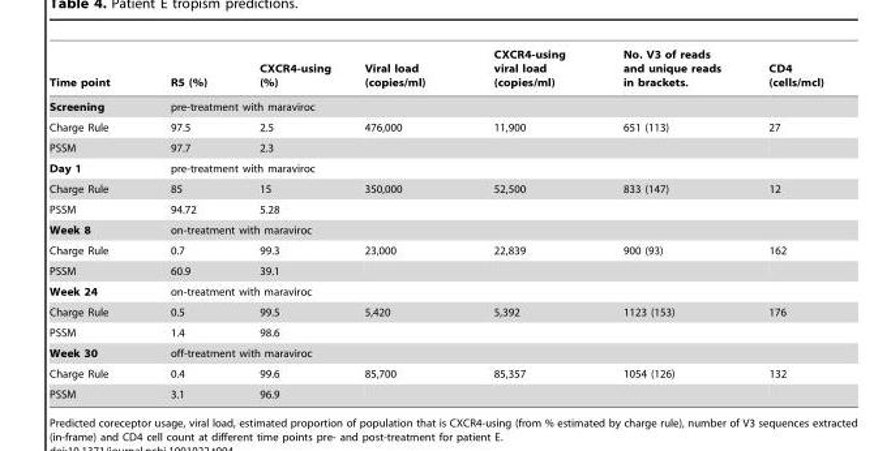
<table><thead><tr><td>Time point</td><td>R5 (%)</td><td>CXCR4-using (%)</td><td>Viral load (copies/ml)</td><td>CXCR4-using viral load (copies/ml)</td><td>No. V3 of reads and unique reads in brackets.</td><td>CD4 (cells/mcl)</td></tr></thead><tbody><tr><td>Screening</td><td colspan="6">pre-treatment with maraviroc</td></tr><tr><td>Charge Rule</td><td>97.5</td><td>2.5</td><td>476,000</td><td>11,900</td><td>651 (113)</td><td>27</td></tr><tr><td>PSSM</td><td>97.7</td><td>2.3</td><td></td><td></td><td></td><td></td></tr><tr><td>Day 1</td><td colspan="6">pre-treatment with maraviroc</td></tr><tr><td>Charge Rule</td><td>85</td><td>15</td><td>350,000</td><td>52,500</td><td>833 (147)</td><td>12</td></tr><tr><td>PSSM</td><td>94.72</td><td>5.28</td><td></td><td></td><td></td><td></td></tr><tr><td>Week 8</td><td colspan="6">on-treatment with maraviroc</td></tr><tr><td>Charge Rule</td><td>0.7</td><td>99.3</td><td>23,000</td><td>22,839</td><td>900 (93)</td><td>162</td></tr><tr><td>PSSM</td><td>60.9</td><td>39.1</td><td></td><td></td><td></td><td></td></tr><tr><td>Week 24</td><td colspan="6">on-treatment with maraviroc</td></tr><tr><td>Charge Rule</td><td>0.5</td><td>99.5</td><td>5,420</td><td>5,392</td><td>1123 (153)</td><td>176</td></tr><tr><td>PSSM</td><td>1.4</td><td>98.6</td><td></td><td></td><td></td><td></td></tr><tr><td>Week 30</td><td colspan="6">off-treatment with maraviroc</td></tr><tr><td>Charge Rule</td><td>0.4</td><td>99.6</td><td>85,700</td><td>85,357</td><td>1054 (126)</td><td>132</td></tr><tr><td>PSSM</td><td>3.1</td><td>96.9</td><td></td><td></td><td></td><td></td></tr></tbody></table>